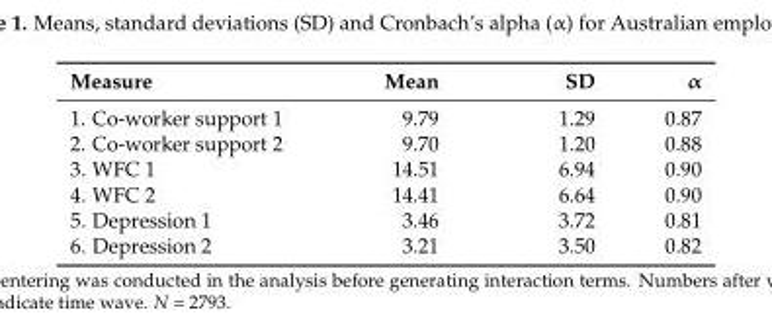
<table><thead><tr><td>Measure</td><td>Mean</td><td>SD</td><td>α</td></tr></thead><tbody><tr><td>1. Co-worker support 1</td><td>9.79</td><td>1.29</td><td>0.87</td></tr><tr><td>2. Co-worker support 2</td><td>9.70</td><td>1.20</td><td>0.88</td></tr><tr><td>3. WFC 1</td><td>14.51</td><td>6.94</td><td>0.90</td></tr><tr><td>4. WFC 2</td><td>14.41</td><td>6.64</td><td>0.90</td></tr><tr><td>5. Depression 1</td><td>3.46</td><td>3.72</td><td>0.81</td></tr><tr><td>6. Depression 2</td><td>3.21</td><td>3.50</td><td>0.82</td></tr></tbody></table>